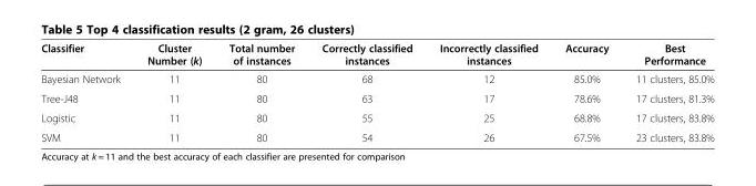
<table><thead><tr><td>Classifier</td><td>Cluster Number (k)</td><td>Total number of instances</td><td>Correctly classified instances</td><td>Incorrectly classified instances</td><td>Accuracy</td><td>Best Performance</td></tr></thead><tbody><tr><td>Bayesian Network</td><td>11</td><td>80</td><td>68</td><td>12</td><td>85.0%</td><td>11 clusters, 85.0%</td></tr><tr><td>Tree-J48</td><td>11</td><td>80</td><td>63</td><td>17</td><td>78.6%</td><td>17 clusters, 81.3%</td></tr><tr><td>Logistic</td><td>11</td><td>80</td><td>55</td><td>25</td><td>68.8%</td><td>17 clusters, 83.8%</td></tr><tr><td>SVM</td><td>11</td><td>80</td><td>54</td><td>26</td><td>67.5%</td><td>23 clusters, 83.8%</td></tr></tbody></table>